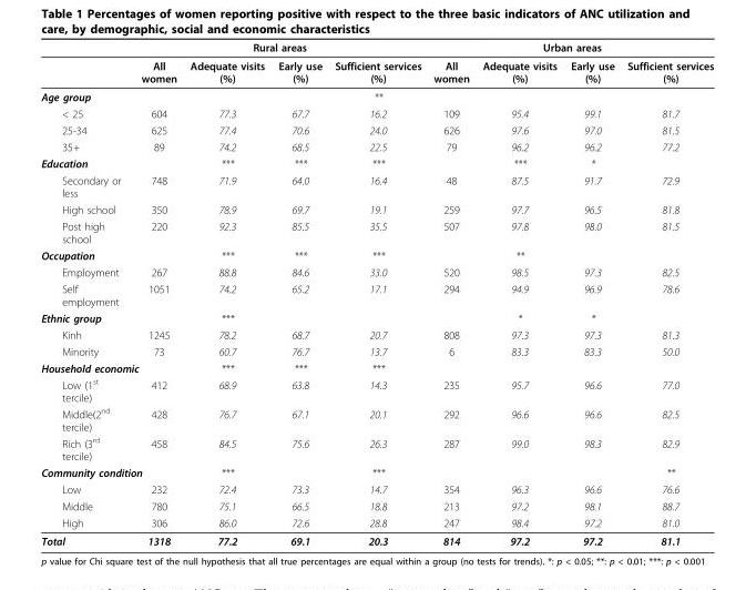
<table><thead><tr><td rowspan="2"></td><td colspan="4">Rural areas</td><td colspan="4">Urban areas</td></tr><tr><td>All women</td><td>Adequate visits (%)</td><td>Early use (%)</td><td>Sufficient services (%)</td><td>All women</td><td>Adequate visits (%)</td><td>Early use (%)</td><td>Sufficient services (%)</td></tr></thead><tbody><tr><td>Age group</td><td></td><td></td><td></td><td>**</td><td></td><td></td><td></td><td></td></tr><tr><td>&lt; 25</td><td>604</td><td>77.3</td><td>67.7</td><td>16.2</td><td>109</td><td>95.4</td><td>99.1</td><td>81.7</td></tr><tr><td>25-34</td><td>625</td><td>77.4</td><td>70.6</td><td>24.0</td><td>626</td><td>97.6</td><td>97.0</td><td>81.5</td></tr><tr><td>35+</td><td>89</td><td>74.2</td><td>68.5</td><td>22.5</td><td>79</td><td>96.2</td><td>96.2</td><td>77.2</td></tr><tr><td>Education</td><td></td><td>***</td><td>***</td><td>***</td><td></td><td>***</td><td>*</td><td></td></tr><tr><td>Secondary or less</td><td>748</td><td>71.9</td><td>64.0</td><td>16.4</td><td>48</td><td>87.5</td><td>91.7</td><td>72.9</td></tr><tr><td>High school</td><td>350</td><td>78.9</td><td>69.7</td><td>19.1</td><td>259</td><td>97.7</td><td>96.5</td><td>81.8</td></tr><tr><td>Post high school</td><td>220</td><td>92.3</td><td>85.5</td><td>35.5</td><td>507</td><td>97.8</td><td>98.0</td><td>81.5</td></tr><tr><td>Occupation</td><td></td><td>***</td><td>***</td><td>***</td><td></td><td>**</td><td></td><td></td></tr><tr><td>Employment</td><td>267</td><td>88.8</td><td>84.6</td><td>33.0</td><td>520</td><td>98.5</td><td>97.3</td><td>82.5</td></tr><tr><td>Self employment</td><td>1051</td><td>74.2</td><td>65.2</td><td>17.1</td><td>294</td><td>94.9</td><td>96.9</td><td>78.6</td></tr><tr><td>Ethnic group</td><td></td><td>***</td><td></td><td></td><td></td><td>*</td><td>*</td><td></td></tr><tr><td>Kinh</td><td>1245</td><td>78.2</td><td>68.7</td><td>20.7</td><td>808</td><td>97.3</td><td>97.3</td><td>81.3</td></tr><tr><td>Minority</td><td>73</td><td>60.7</td><td>76.7</td><td>13.7</td><td>6</td><td>83.3</td><td>83.3</td><td>50.0</td></tr><tr><td colspan="2">Household economic</td><td>***</td><td>***</td><td>***</td><td></td><td></td><td></td><td></td></tr><tr><td>Low (1<sup>st</sup> tercile)</td><td>412</td><td>68.9</td><td>63.8</td><td>14.3</td><td>235</td><td>95.7</td><td>96.6</td><td>77.0</td></tr><tr><td>Middle(2<sup>nd</sup> tercile)</td><td>428</td><td>76.7</td><td>67.1</td><td>20.1</td><td>292</td><td>96.6</td><td>96.6</td><td>82.5</td></tr><tr><td>Rich (3<sup>rd</sup> tercile)</td><td>458</td><td>84.5</td><td>75.6</td><td>26.3</td><td>287</td><td>99.0</td><td>98.3</td><td>82.9</td></tr><tr><td colspan="2">Community condition</td><td>***</td><td></td><td>***</td><td></td><td></td><td></td><td>**</td></tr><tr><td>Low</td><td>232</td><td>72.4</td><td>73.3</td><td>14.7</td><td>354</td><td>96.3</td><td>96.6</td><td>76.6</td></tr><tr><td>Middle</td><td>780</td><td>75.1</td><td>66.5</td><td>18.8</td><td>213</td><td>97.2</td><td>98.1</td><td>88.7</td></tr><tr><td>High</td><td>306</td><td>86.0</td><td>72.6</td><td>28.8</td><td>247</td><td>98.4</td><td>97.2</td><td>81.0</td></tr><tr><td>Total</td><td>1318</td><td>77.2</td><td>69.1</td><td>20.3</td><td>814</td><td>97.2</td><td>97.2</td><td>81.1</td></tr></tbody></table>